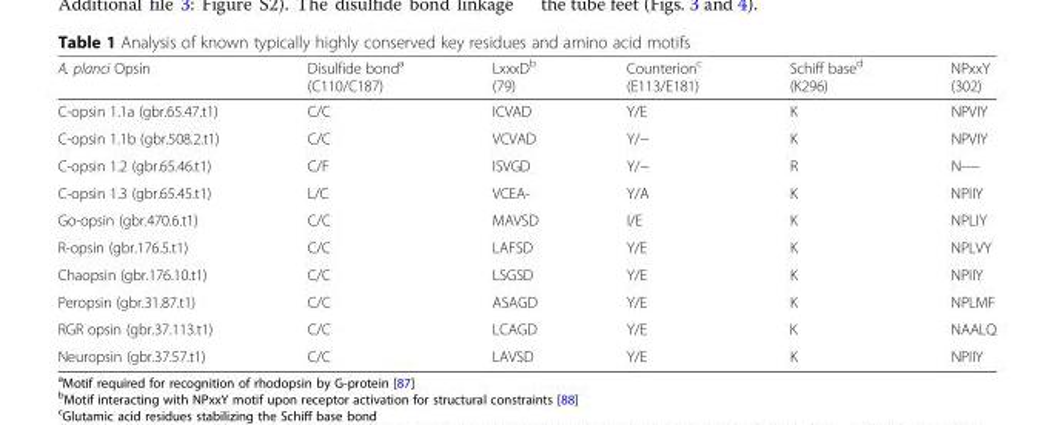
<table><thead><tr><td>A. planci Opsin</td><td>Disulfide bond<sup>a</sup> (C110/C187)</td><td>LxxxD<sup>b</sup> (79)</td><td>Counterion<sup>c</sup> (E113/E181)</td><td>Schiff base<sup>d</sup> (K296)</td><td>NPxxY (302)</td></tr></thead><tbody><tr><td>C-opsin 1.1a (gbr.65.47.t1)</td><td>C/C</td><td>ICVAD</td><td>Y/E</td><td>K</td><td>NPVIY</td></tr><tr><td>C-opsin 1.1b (gbr.508.2.t1)</td><td>C/C</td><td>VCVAD</td><td>Y/−</td><td>K</td><td>NPVIY</td></tr><tr><td>C-opsin 1.2 (gbr.65.46.t1)</td><td>C/F</td><td>ISVGD</td><td>Y/−</td><td>R</td><td>N----</td></tr><tr><td>C-opsin 1.3 (gbr.65.45.t1)</td><td>L/C</td><td>VCEA-</td><td>Y/A</td><td>K</td><td>NPIIY</td></tr><tr><td>Go-opsin (gbr.470.6.t1)</td><td>C/C</td><td>MAVSD</td><td>I/E</td><td>K</td><td>NPLIY</td></tr><tr><td>R-opsin (gbr.176.5.t1)</td><td>C/C</td><td>LAFSD</td><td>Y/E</td><td>K</td><td>NPLVY</td></tr><tr><td>Chaopsin (gbr.176.10.t1)</td><td>C/C</td><td>LSGSD</td><td>Y/E</td><td>K</td><td>NPIIY</td></tr><tr><td>Peropsin (gbr.31.87.t1)</td><td>C/C</td><td>ASAGD</td><td>Y/E</td><td>K</td><td>NPLMF</td></tr><tr><td>RGR opsin (gbr.37.113.t1)</td><td>C/C</td><td>LCAGD</td><td>Y/E</td><td>K</td><td>NAALQ</td></tr><tr><td>Neuropsin (gbr.37.57.t1)</td><td>C/C</td><td>LAVSD</td><td>Y/E</td><td>K</td><td>NPIIY</td></tr></tbody></table>